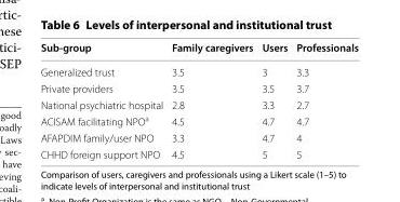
<table><thead><tr><td>Sub-group</td><td>Family caregivers</td><td>Users</td><td>Professionals</td></tr></thead><tbody><tr><td>Generalized trust</td><td>3.5</td><td>3</td><td>3.3</td></tr><tr><td>Private providers</td><td>3.5</td><td>3.5</td><td>3.7</td></tr><tr><td>National psychiatric hospital</td><td>2.8</td><td>3.3</td><td>2.7</td></tr><tr><td>ACISAM facilitating NPO<sup>a</sup></td><td>4.5</td><td>4.7</td><td>4.7</td></tr><tr><td>AFAPDIM family/user NPO</td><td>3.3</td><td>4.7</td><td>4</td></tr><tr><td>CHHD foreign support NPO</td><td>4.5</td><td>5</td><td>5</td></tr></tbody></table>